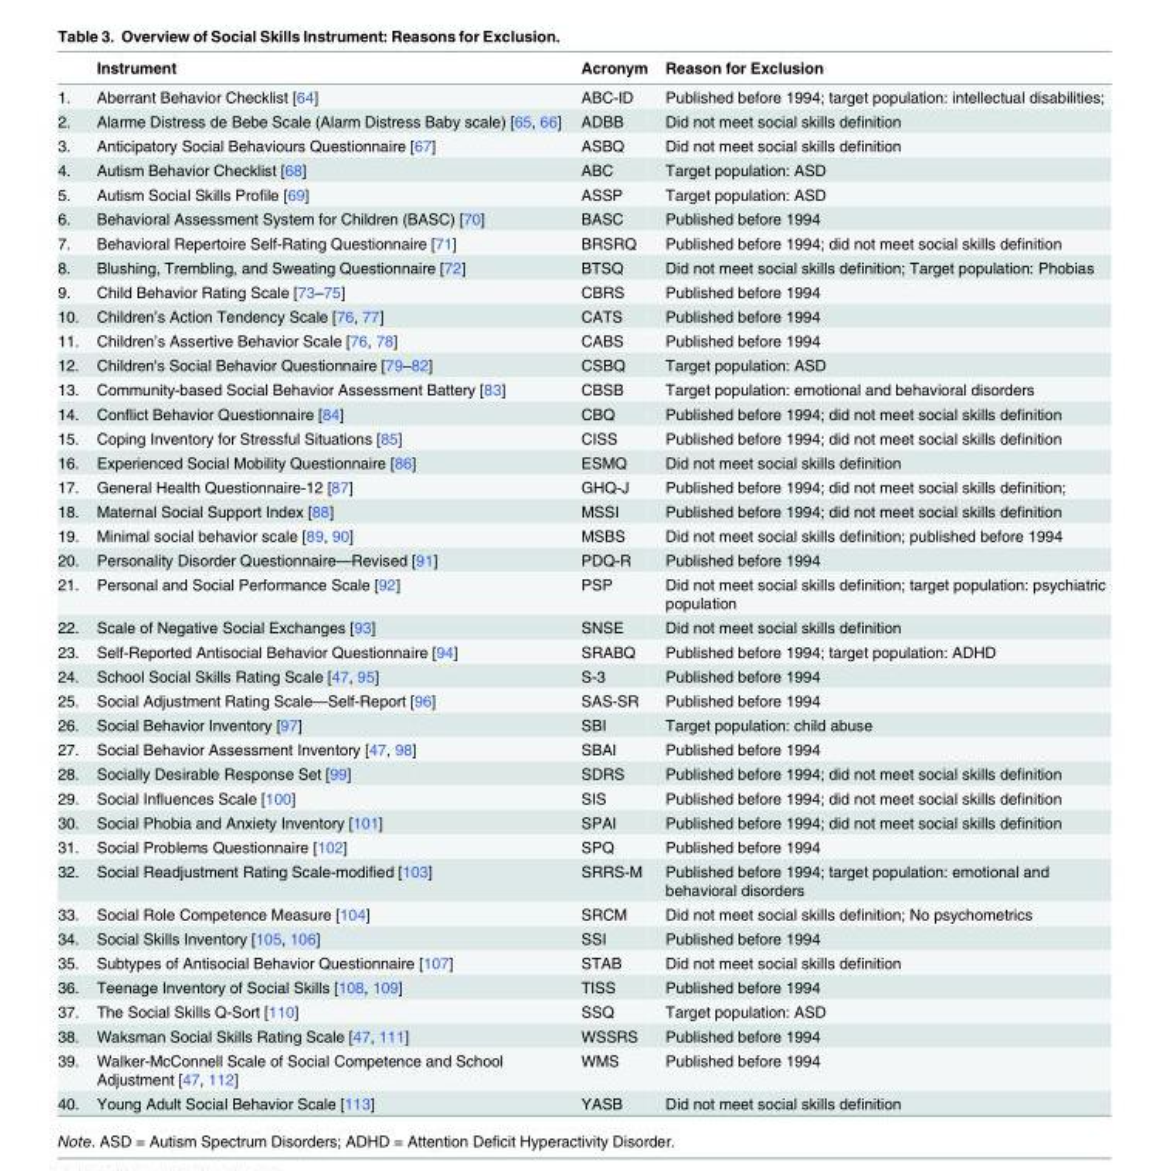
<table><thead><tr><td></td><td>Instrument</td><td>Acronym</td><td>Reason for Exclusion</td></tr></thead><tbody><tr><td>1.</td><td>Aberrant Behavior Checklist [64]</td><td>ABC-ID</td><td>Published before 1994; target population: intellectual disabilities;</td></tr><tr><td>2.</td><td>Alarme Distress de Bebe Scale (Alarm Distress Baby scale) [65, 66]</td><td>ADBB</td><td>Did not meet social skills definition</td></tr><tr><td>3.</td><td>Anticipatory Social Behaviours Questionnaire [67]</td><td>ASBQ</td><td>Did not meet social skills definition</td></tr><tr><td>4.</td><td>Autism Behavior Checklist [68]</td><td>ABC</td><td>Target population: ASD</td></tr><tr><td>5.</td><td>Autism Social Skills Profile [69]</td><td>ASSP</td><td>Target population: ASD</td></tr><tr><td>6.</td><td>Behavioral Assessment System for Children (BASC) [70]</td><td>BASC</td><td>Published before 1994</td></tr><tr><td>7.</td><td>Behavioral Repertoire Self-Rating Questionnaire [71]</td><td>BRSRQ</td><td>Published before 1994; did not meet social skills definition</td></tr><tr><td>8.</td><td>Blushing, Trembling, and Sweating Questionnaire [72]</td><td>BTSQ</td><td>Did not meet social skills definition; Target population: Phobias</td></tr><tr><td>9.</td><td>Child Behavior Rating Scale [73–75]</td><td>CBRS</td><td>Published before 1994</td></tr><tr><td>10.</td><td>Children’s Action Tendency Scale [76, 77]</td><td>CATS</td><td>Published before 1994</td></tr><tr><td>11.</td><td>Children’s Assertive Behavior Scale [76, 78]</td><td>CABS</td><td>Published before 1994</td></tr><tr><td>12.</td><td>Children&#x27;s Social Behavior Questionnaire [79–82]</td><td>CSBQ</td><td>Target population: ASD</td></tr><tr><td>13.</td><td>Community-based Social Behavior Assessment Battery [83]</td><td>CBSB</td><td>Target population: emotional and behavioral disorders</td></tr><tr><td>14.</td><td>Conflict Behavior Questionnaire [84]</td><td>CBQ</td><td>Published before 1994; did not meet social skills definition</td></tr><tr><td>15.</td><td>Coping Inventory for Stressful Situations [85]</td><td>CISS</td><td>Published before 1994; did not meet social skills definition</td></tr><tr><td>16.</td><td>Experienced Social Mobility Questionnaire [86]</td><td>ESMQ</td><td>Did not meet social skills definition</td></tr><tr><td>17.</td><td>General Health Questionnaire-12 [87]</td><td>GHQ-J</td><td>Published before 1994; did not meet social skills definition;</td></tr><tr><td>18.</td><td>Maternal Social Support Index [88]</td><td>MSSI</td><td>Published before 1994; did not meet social skills definition</td></tr><tr><td>19.</td><td>Minimal social behavior scale [89, 90]</td><td>MSBS</td><td>Did not meet social skills definition; published before 1994</td></tr><tr><td>20.</td><td>Personality Disorder Questionnaire—Revised [91]</td><td>PDQ-R</td><td>Published before 1994</td></tr><tr><td>21.</td><td>Personal and Social Performance Scale [92]</td><td>PSP</td><td>Did not meet social skills definition; target population: psychiatric population</td></tr><tr><td>22.</td><td>Scale of Negative Social Exchanges [93]</td><td>SNSE</td><td>Did not meet social skills definition</td></tr><tr><td>23.</td><td>Self-Reported Antisocial Behavior Questionnaire [94]</td><td>SRABQ</td><td>Published before 1994; target population: ADHD</td></tr><tr><td>24.</td><td>School Social Skills Rating Scale [47, 95]</td><td>S-3</td><td>Published before 1994</td></tr><tr><td>25.</td><td>Social Adjustment Rating Scale—Self-Report [96]</td><td>SAS-SR</td><td>Published before 1994</td></tr><tr><td>26.</td><td>Social Behavior Inventory [97]</td><td>SBI</td><td>Target population: child abuse</td></tr><tr><td>27.</td><td>Social Behavior Assessment Inventory [47, 98]</td><td>SBAI</td><td>Published before 1994</td></tr><tr><td>28.</td><td>Socially Desirable Response Set [99]</td><td>SDRS</td><td>Published before 1994; did not meet social skills definition</td></tr><tr><td>29.</td><td>Social Influences Scale [100]</td><td>SIS</td><td>Published before 1994; did not meet social skills definition</td></tr><tr><td>30.</td><td>Social Phobia and Anxiety Inventory [101]</td><td>SPAI</td><td>Published before 1994; did not meet social skills definition</td></tr><tr><td>31.</td><td>Social Problems Questionnaire [102]</td><td>SPQ</td><td>Published before 1994</td></tr><tr><td>32.</td><td>Social Readjustment Rating Scale-modified [103]</td><td>SRRS-M</td><td>Published before 1994; target population: emotional and behavioral disorders</td></tr><tr><td>33.</td><td>Social Role Competence Measure [104]</td><td>SRCM</td><td>Did not meet social skills definition; No psychometrics</td></tr><tr><td>34.</td><td>Social Skills Inventory [105, 106]</td><td>SSI</td><td>Published before 1994</td></tr><tr><td>35.</td><td>Subtypes of Antisocial Behavior Questionnaire [107]</td><td>STAB</td><td>Did not meet social skills definition</td></tr><tr><td>36.</td><td>Teenage Inventory of Social Skills [108, 109]</td><td>TISS</td><td>Published before 1994</td></tr><tr><td>37.</td><td>The Social Skills Q-Sort [110]</td><td>SSQ</td><td>Target population: ASD</td></tr><tr><td>38.</td><td>Waksman Social Skills Rating Scale [47, 111]</td><td>WSSRS</td><td>Published before 1994</td></tr><tr><td>39.</td><td>Walker-McConnell Scale of Social Competence and School Adjustment [47, 112]</td><td>WMS</td><td>Published before 1994</td></tr><tr><td>40.</td><td>Young Adult Social Behavior Scale [113]</td><td>YASB</td><td>Did not meet social skills definition</td></tr></tbody></table>